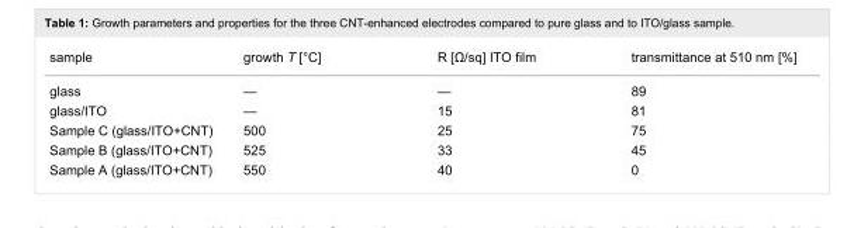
<table><tbody><tr><td>sample</td><td>growth T [°C]</td><td>R [Ω/sq] ITO film</td><td>transmittance at 510 nm [%]</td></tr><tr><td>glass</td><td>—</td><td>—</td><td>89</td></tr><tr><td>glass/ITO</td><td>—</td><td>15</td><td>81</td></tr><tr><td>Sample C (glass/ITO+CNT)</td><td>500</td><td>25</td><td>75</td></tr><tr><td>Sample B (glass/ITO+CNT)</td><td>525</td><td>33</td><td>45</td></tr><tr><td>Sample A (glass/ITO+CNT)</td><td>550</td><td>40</td><td>0</td></tr></tbody></table>